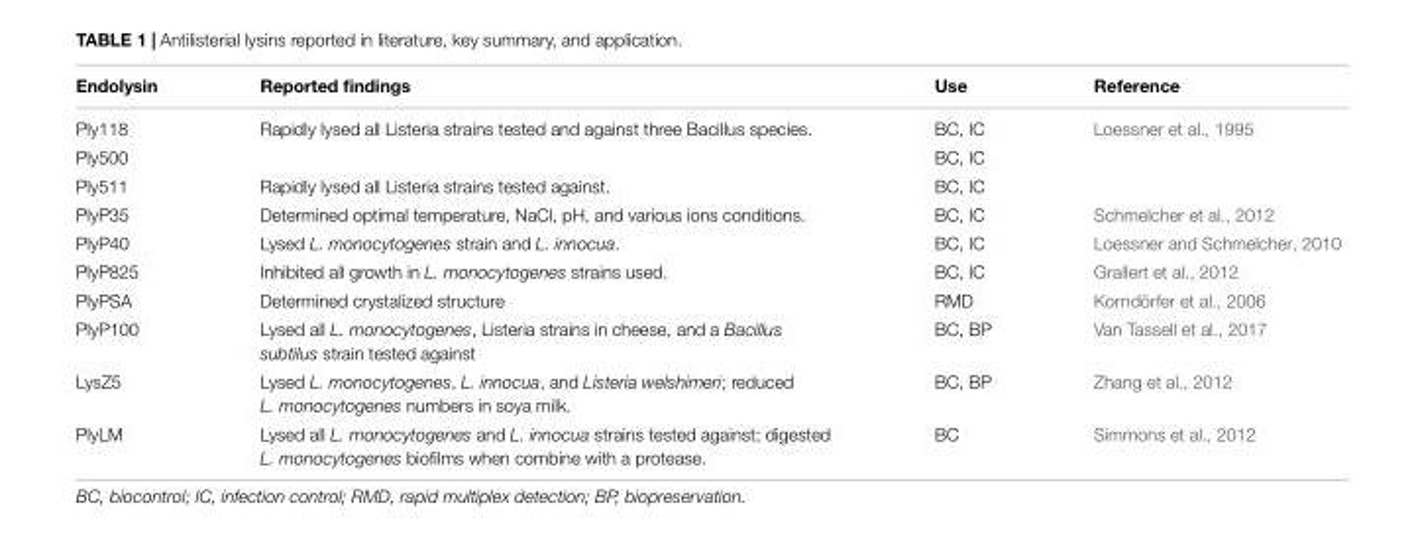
<table><thead><tr><td>Endolysin</td><td>Reported findings</td><td>Use</td><td>Reference</td></tr></thead><tbody><tr><td>Ply118</td><td>Rapidly lysed all Listeria strains tested and against three Bacillus species.</td><td>BC, IC</td><td>Loessner et al., 1995</td></tr><tr><td>Ply500</td><td></td><td>BC, IC</td><td></td></tr><tr><td>Ply511</td><td>Rapidly lysed all Listeria strains tested against.</td><td>BC, IC</td><td></td></tr><tr><td>PlyP35</td><td>Determined optimal temperature, NaCl, pH, and various ions conditions.</td><td>BC, IC</td><td>Schmelcher et al., 2012</td></tr><tr><td>PlyP40</td><td>Lysed L. monocytogenes strain and L. innocua.</td><td>BC, IC</td><td>Loessner and Schmelcher, 2010</td></tr><tr><td>PlyP825</td><td>Inhibited all growth in L. monocytogenes strains used.</td><td>BC, IC</td><td>Grallert et al., 2012</td></tr><tr><td>PlyPSA</td><td>Determined crystalized structure</td><td>RMD</td><td>Korndörfer et al., 2006</td></tr><tr><td>PlyP100</td><td>Lysed all L. monocytogenes, Listeria strains in cheese, and a Bacillus subtilus strain tested against</td><td>BC, BP</td><td>Van Tassell et al., 2017</td></tr><tr><td>LysZ5</td><td>Lysed L. monocytogenes, L. innocua, and Listeria welshimeri; reduced L. monocytogenes numbers in soya milk.</td><td>BC, BP</td><td>Zhang et al., 2012</td></tr><tr><td>PlyLM</td><td>Lysed all L. monocytogenes and L. innocua strains tested against; digested L. monocytogenes biofilms when combine with a protease.</td><td>BC</td><td>Simmons et al., 2012</td></tr></tbody></table>